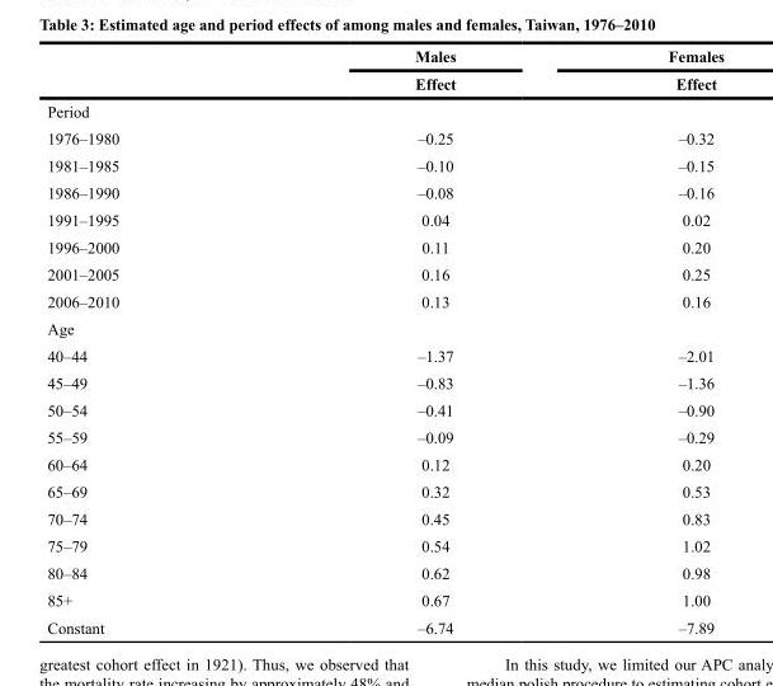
<table><thead><tr><td rowspan="2"></td><td rowspan="2">Males Effect</td><td rowspan="2">Females Effect</td></tr><tr></tr></thead><tbody><tr><td colspan="3">Period</td></tr><tr><td>1976–1980</td><td>–0.25</td><td>–0.32</td></tr><tr><td>1981–1985</td><td>–0.10</td><td>–0.15</td></tr><tr><td>1986–1990</td><td>–0.08</td><td>–0.16</td></tr><tr><td>1991–1995</td><td>0.04</td><td>0.02</td></tr><tr><td>1996–2000</td><td>0.11</td><td>0.20</td></tr><tr><td>2001–2005</td><td>0.16</td><td>0.25</td></tr><tr><td>2006–2010</td><td>0.13</td><td>0.16</td></tr><tr><td colspan="3">Age</td></tr><tr><td>40–44</td><td>–1.37</td><td>–2.01</td></tr><tr><td>45–49</td><td>–0.83</td><td>–1.36</td></tr><tr><td>50–54</td><td>–0.41</td><td>–0.90</td></tr><tr><td>55–59</td><td>–0.09</td><td>–0.29</td></tr><tr><td>60–64</td><td>0.12</td><td>0.20</td></tr><tr><td>65–69</td><td>0.32</td><td>0.53</td></tr><tr><td>70–74</td><td>0.45</td><td>0.83</td></tr><tr><td>75–79</td><td>0.54</td><td>1.02</td></tr><tr><td>80–84</td><td>0.62</td><td>0.98</td></tr><tr><td>85+</td><td>0.67</td><td>1.00</td></tr><tr><td>Constant</td><td>–6.74</td><td>–7.89</td></tr></tbody></table>